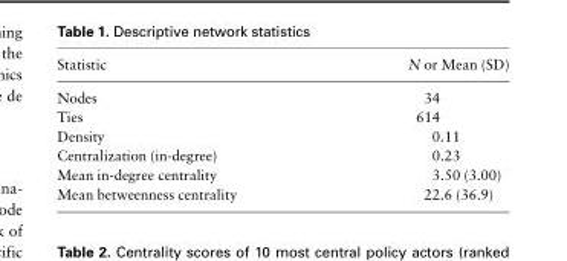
<table><thead><tr><td>Statistic</td><td>N or Mean (SD)</td></tr></thead><tbody><tr><td>Nodes</td><td>34</td></tr><tr><td>Ties</td><td>614</td></tr><tr><td>Density</td><td>0.11</td></tr><tr><td>Centralization (in-degree)</td><td>0.23</td></tr><tr><td>Mean in-degree centrality</td><td>3.50 (3.00)</td></tr><tr><td>Mean betweenness centrality</td><td>22.6 (36.9)</td></tr></tbody></table>